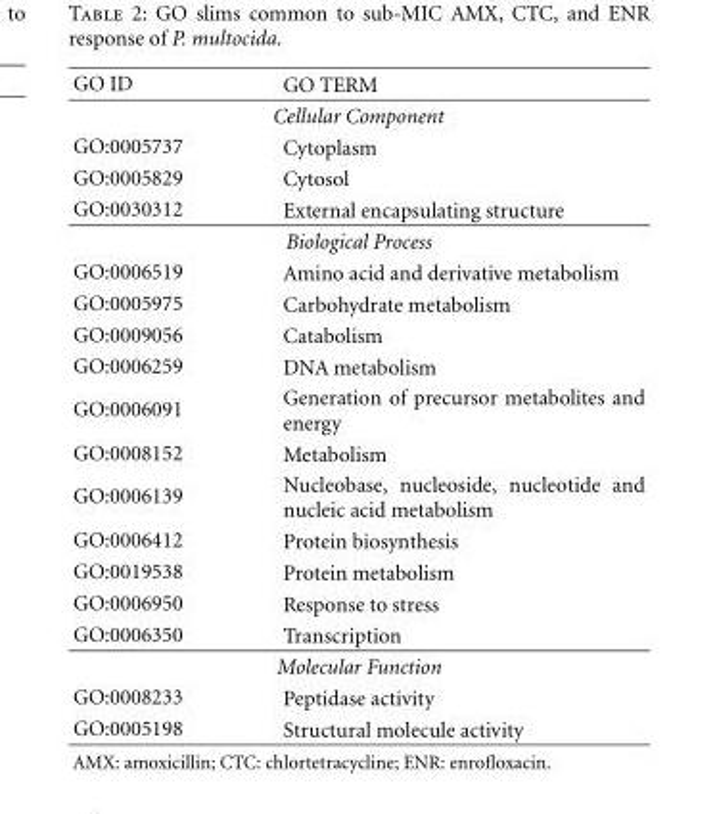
<table><thead><tr><td>GO ID</td><td>GO TERM</td></tr></thead><tbody><tr><td colspan="2">Cellular Component</td></tr><tr><td>GO:0005737</td><td>Cytoplasm</td></tr><tr><td>GO:0005829</td><td>Cytosol</td></tr><tr><td>GO:0030312</td><td>External encapsulating structure</td></tr><tr><td colspan="2">Biological Process</td></tr><tr><td>GO:0006519</td><td>Amino acid and derivative metabolism</td></tr><tr><td>GO:0005975</td><td>Carbohydrate metabolism</td></tr><tr><td>GO:0009056</td><td>Catabolism</td></tr><tr><td>GO:0006259</td><td>DNA metabolism</td></tr><tr><td>GO:0006091</td><td>Generation of precursor metabolites and energy</td></tr><tr><td>GO:0008152</td><td>Metabolism</td></tr><tr><td>GO:0006139</td><td>Nucleobase, nucleoside, nucleotide and nucleic acid metabolism</td></tr><tr><td>GO:0006412</td><td>Protein biosynthesis</td></tr><tr><td>GO:0019538</td><td>Protein metabolism</td></tr><tr><td>GO:0006950</td><td>Response to stress</td></tr><tr><td>GO:0006350</td><td>Transcription</td></tr><tr><td colspan="2">Molecular Function</td></tr><tr><td>GO:0008233</td><td>Peptidase activity</td></tr><tr><td>GO:0005198</td><td>Structural molecule activity</td></tr></tbody></table>